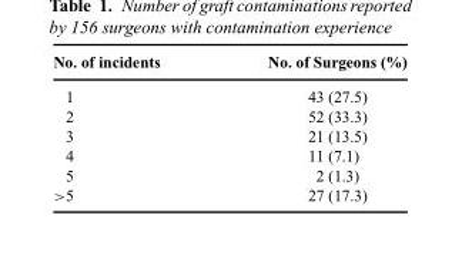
<table><thead><tr><td>No. of incidents</td><td>No. of Surgeons (%)</td></tr></thead><tbody><tr><td>1</td><td>43 (27.5)</td></tr><tr><td>2</td><td>52 (33.3)</td></tr><tr><td>3</td><td>21 (13.5)</td></tr><tr><td>4</td><td>11 (7.1)</td></tr><tr><td>5</td><td>2 (1.3)</td></tr><tr><td>&gt;5</td><td>27 (17.3)</td></tr></tbody></table>